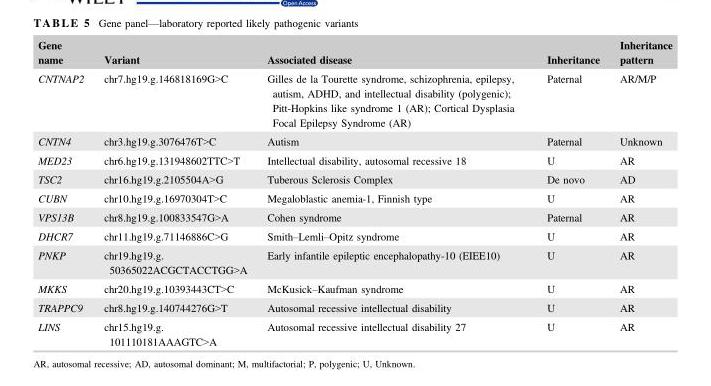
<table><thead><tr><td>Gene name</td><td>Variant</td><td>Associated disease</td><td>Inheritance</td><td>Inheritance pattern</td></tr></thead><tbody><tr><td>CNTNAP2</td><td>chr7.hg19.g.146818169G&gt;C</td><td>Gilles de la Tourette syndrome, schizophrenia, epilepsy, autism, ADHD, and intellectual disability (polygenic); Pitt-Hopkins like syndrome 1 (AR); Cortical Dysplasia Focal Epilepsy Syndrome (AR)</td><td>Paternal</td><td>AR/M/P</td></tr><tr><td>CNTN4</td><td>chr3.hg19.g.3076476T&gt;C</td><td>Autism</td><td>Paternal</td><td>Unknown</td></tr><tr><td>MED23</td><td>chr6.hg19.g.131948602TTC&gt;T</td><td>Intellectual disability, autosomal recessive 18</td><td>U</td><td>AR</td></tr><tr><td>TSC2</td><td>chr16.hg19.g.2105504A&gt;G</td><td>Tuberous Sclerosis Complex</td><td>De novo</td><td>AD</td></tr><tr><td>CUBN</td><td>chr10.hg19.g.16970304T&gt;C</td><td>Megaloblastic anemia-1, Finnish type</td><td>U</td><td>AR</td></tr><tr><td>VPS13B</td><td>chr8.hg19.g.100833547G&gt;A</td><td>Cohen syndrome</td><td>Paternal</td><td>AR</td></tr><tr><td>DHCR7</td><td>chr11.hg19.g.71146886C&gt;G</td><td>Smith–Lemli–Opitz syndrome</td><td>U</td><td>AR</td></tr><tr><td>PNKP</td><td>chr19.hg19.g. 50365022ACGCTACCTGG&gt;A</td><td>Early infantile epileptic encephalopathy-10 (EIEE10)</td><td>U</td><td>AR</td></tr><tr><td>MKKS</td><td>chr20.hg19.g.10393443CT&gt;C</td><td>McKusick–Kaufman syndrome</td><td>U</td><td>AR</td></tr><tr><td>TRAPPC9</td><td>chr8.hg19.g.140744276G&gt;T</td><td>Autosomal recessive intellectual disability</td><td>U</td><td>AR</td></tr><tr><td>LINS</td><td>chr15.hg19.g. 101110181AAAGTC&gt;A</td><td>Autosomal recessive intellectual disability 27</td><td>U</td><td>AR</td></tr></tbody></table>